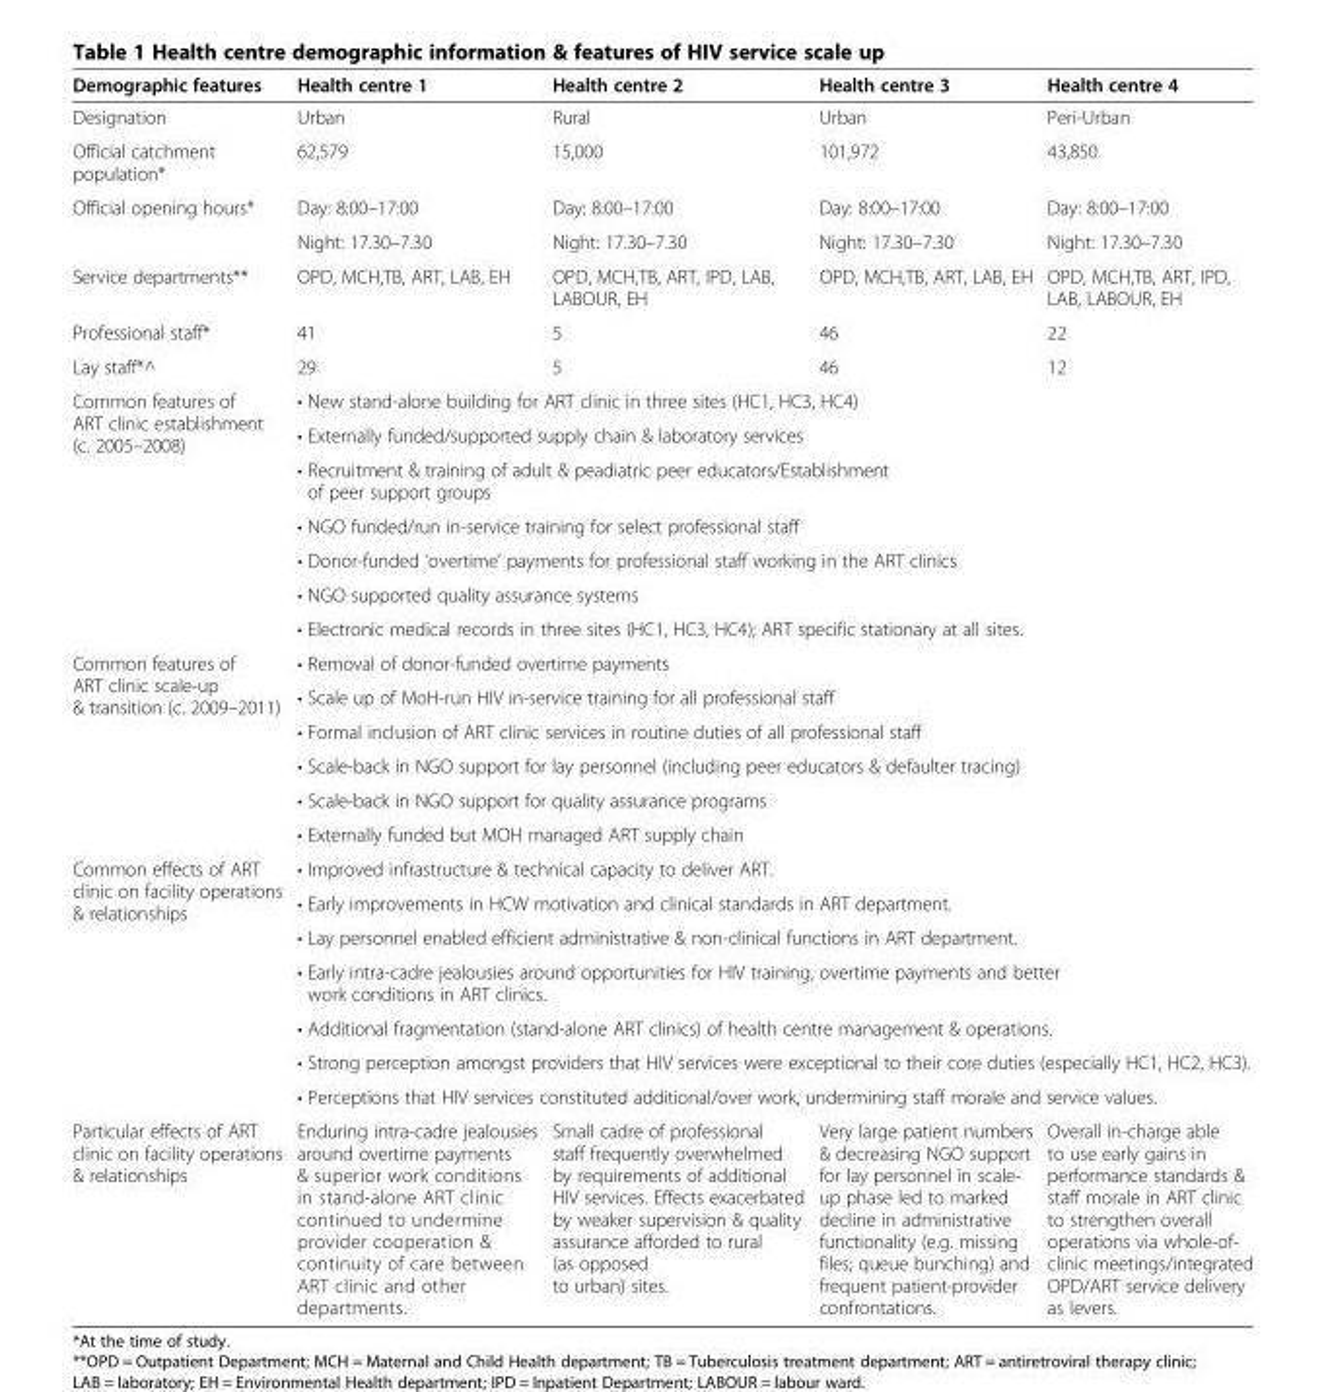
<table><thead><tr><td>Demographic features</td><td>Health centre 1</td><td>Health centre 2</td><td>Health centre 3</td><td>Health centre 4</td></tr></thead><tbody><tr><td>Designation</td><td>Urban</td><td>Rural</td><td>Urban</td><td>Peri-Urban</td></tr><tr><td>Official catchment population*</td><td>62,579</td><td>15,000</td><td>101,972</td><td>43,850</td></tr><tr><td rowspan="2">Official opening hours*</td><td>Day: 8:00–17:00</td><td>Day: 8:00–17:00</td><td>Day: 8:00–17:00</td><td>Day: 8:00–17:00</td></tr><tr><td>Night: 17.30–7.30</td><td>Night: 17.30–7.30</td><td>Night: 17.30–7.30</td><td>Night: 17.30–7.30</td></tr><tr><td>Service departments**</td><td>OPD, MCH,TB, ART, LAB, EH</td><td>OPD, MCH,TB, ART, IPD, LAB, LABOUR, EH</td><td>OPD, MCH,TB, ART, LAB, EH</td><td>OPD, MCH,TB, ART, IPD, LAB, LABOUR, EH</td></tr><tr><td>Professional staff*</td><td>41</td><td>5</td><td>46</td><td>22</td></tr><tr><td>Lay staff*^</td><td>29</td><td>5</td><td>46</td><td>12</td></tr><tr><td rowspan="7">Common features of ART clinic establishment (c. 2005–2008)</td><td colspan="4">• New stand-alone building for ART clinic in three sites (HC1, HC3, HC4)</td></tr><tr><td colspan="4">• Externally funded/supported supply chain &amp; laboratory services</td></tr><tr><td colspan="4">• Recruitment &amp; training of adult &amp; peadiatric peer educators/Establishment of peer support groups</td></tr><tr><td colspan="4">• NGO funded/run in-service training for select professional staff</td></tr><tr><td colspan="4">• Donor-funded ‘overtime’ payments for professional staff working in the ART clinics</td></tr><tr><td colspan="4">• NGO supported quality assurance systems</td></tr><tr><td colspan="4">• Electronic medical records in three sites (HC1, HC3, HC4); ART specific stationary at all sites.</td></tr><tr><td rowspan="6">Common features of ART clinic scale-up &amp; transition (c. 2009–2011)</td><td colspan="4">• Removal of donor-funded overtime payments</td></tr><tr><td colspan="4">• Scale up of MoH-run HIV in-service training for all professional staff</td></tr><tr><td colspan="4">• Formal inclusion of ART clinic services in routine duties of all professional staff</td></tr><tr><td colspan="4">• Scale-back in NGO support for lay personnel (including peer educators &amp; defaulter tracing)</td></tr><tr><td colspan="4">• Scale-back in NGO support for quality assurance programs</td></tr><tr><td colspan="4">• Externally funded but MOH managed ART supply chain</td></tr><tr><td rowspan="7">Common effects of ART clinic on facility operations &amp; relationships</td><td colspan="4">• Improved infrastructure &amp; technical capacity to deliver ART.</td></tr><tr><td colspan="4">• Early improvements in HCW motivation and clinical standards in ART department.</td></tr><tr><td colspan="4">• Lay personnel enabled efficient administrative &amp; non-clinical functions in ART department.</td></tr><tr><td colspan="4">• Early intra-cadre jealousies around opportunities for HIV training, overtime payments and better work conditions in ART clinics.</td></tr><tr><td colspan="4">• Additional fragmentation (stand-alone ART clinics) of health centre management &amp; operations.</td></tr><tr><td colspan="4">• Strong perception amongst providers that HIV services were exceptional to their core duties (especially HC1, HC2, HC3).</td></tr><tr><td colspan="4">• Perceptions that HIV services constituted additional/over work, undermining staff morale and service values.</td></tr><tr><td>Particular effects of ART clinic on facility operations &amp; relationships</td><td>Enduring intra-cadre jealousies around overtime payments &amp; superior work conditions in stand-alone ART clinic continued to undermine provider cooperation &amp; continuity of care between ART clinic and other departments.</td><td>Small cadre of professional staff frequently overwhelmed by requirements of additional HIV services. Effects exacerbated by weaker supervision &amp; quality assurance afforded to rural (as opposed to urban) sites.</td><td>Very large patient numbers &amp; decreasing NGO support for lay personnel in scale- up phase led to marked decline in administrative functionality (e.g. missing files; queue bunching) and frequent patient-provider confrontations.</td><td>Overall in-charge able to use early gains in performance standards &amp; staff morale in ART clinic to strengthen overall operations via whole-of- clinic meetings/integrated OPD/ART service delivery as levers.</td></tr></tbody></table>